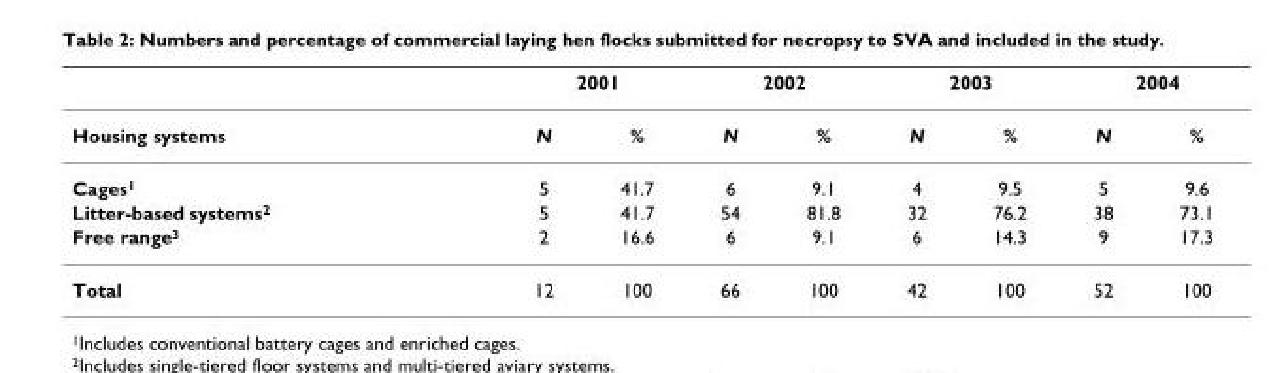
<table><thead><tr><td rowspan="2">Housing systems</td><td colspan="2">2001</td><td colspan="2">2002</td><td colspan="2">2003</td><td colspan="2">2004</td></tr><tr><td>N</td><td>%</td><td>N</td><td>%</td><td>N</td><td>%</td><td>N</td><td>%</td></tr></thead><tbody><tr><td>Cages<sup>1</sup></td><td>5</td><td>41.7</td><td>6</td><td>9.1</td><td>4</td><td>9.5</td><td>5</td><td>9.6</td></tr><tr><td>Litter-based systems<sup>2</sup></td><td>5</td><td>41.7</td><td>54</td><td>81.8</td><td>32</td><td>76.2</td><td>38</td><td>73.1</td></tr><tr><td>Free range<sup>3</sup></td><td>2</td><td>16.6</td><td>6</td><td>9.1</td><td>6</td><td>14.3</td><td>9</td><td>17.3</td></tr><tr><td>Total</td><td>12</td><td>100</td><td>66</td><td>100</td><td>42</td><td>100</td><td>52</td><td>100</td></tr></tbody></table>